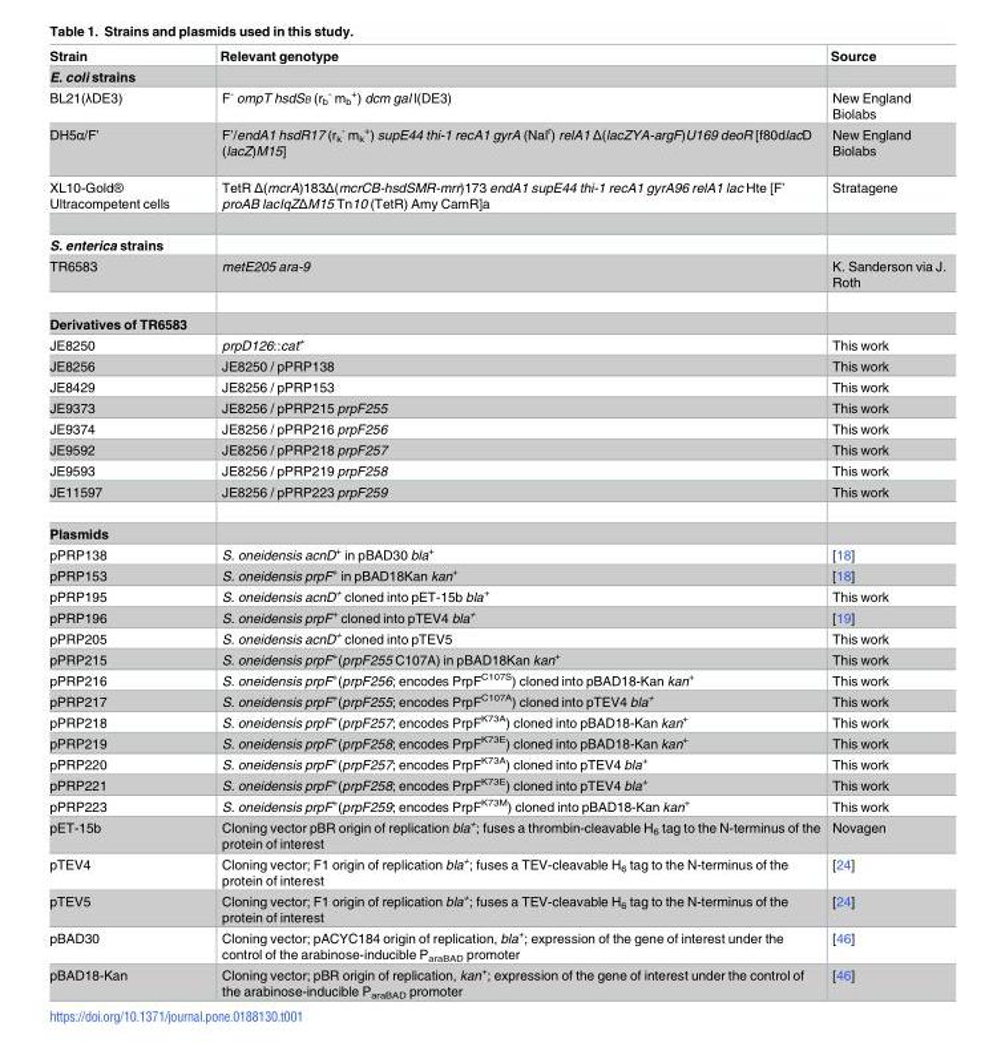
<table><thead><tr><td>Strain</td><td>Relevant genotype</td><td>Source</td></tr></thead><tbody><tr><td colspan="3">E. coli strains</td></tr><tr><td>BL21(λDE3)</td><td>F<sup>-</sup> ompT hsdSB (r<sub>b</sub> <sup>-</sup> m<sub>b</sub> <sup>+</sup>) dcm gal l(DE3)</td><td>New England Biolabs</td></tr><tr><td>DH5α/F’</td><td>F’/endA1 hsdR17 (r<sub>k</sub> <sup>-</sup> m<sub>k</sub> <sup>+</sup>) supE44 thi-1 recA1 gyrA (Nal<sup>r</sup>) relA1 Δ(lacZYA-argF)U169 deoR [f80dlacD (lacZ)M15]</td><td>New England Biolabs</td></tr><tr><td>XL10-Gold® Ultracompetent cells</td><td>TetR Δ(mcrA)183Δ(mcrCB-hsdSMR-mrr)173 endA1 supE44 thi-1 recA1 gyrA96 relA1 lac Hte [F’ proAB lacIqZΔM15 Tn10 (TetR) Amy CamR]a</td><td>Stratagene</td></tr><tr><td colspan="3">S. enterica strains</td></tr><tr><td>TR6583</td><td>metE205 ara-9</td><td>K. Sanderson via J. Roth</td></tr><tr><td colspan="3">Derivatives of TR6583</td></tr><tr><td>JE8250</td><td>prpD126::cat<sup>+</sup></td><td>This work</td></tr><tr><td>JE8256</td><td>JE8250 / pPRP138</td><td>This work</td></tr><tr><td>JE8429</td><td>JE8256 / pPRP153</td><td>This work</td></tr><tr><td>JE9373</td><td>JE8256 / pPRP215 prpF255</td><td>This work</td></tr><tr><td>JE9374</td><td>JE8256 / pPRP216 prpF256</td><td>This work</td></tr><tr><td>JE9592</td><td>JE8256 / pPRP218 prpF257</td><td>This work</td></tr><tr><td>JE9593</td><td>JE8256 / pPRP219 prpF258</td><td>This work</td></tr><tr><td>JE11597</td><td>JE8256 / pPRP223 prpF259</td><td>This work</td></tr><tr><td colspan="3">Plasmids</td></tr><tr><td>pPRP138</td><td>S. oneidensis acnD<sup>+</sup> in pBAD30 bla<sup>+</sup></td><td>[18]</td></tr><tr><td>pPRP153</td><td>S. oneidensis prpF<sup>+</sup> in pBAD18Kan kan<sup>+</sup></td><td>[18]</td></tr><tr><td>pPRP195</td><td>S. oneidensis acnD<sup>+</sup> cloned into pET-15b bla<sup>+</sup></td><td>This work</td></tr><tr><td>pPRP196</td><td>S. oneidensis prpF<sup>+</sup> cloned into pTEV4 bla<sup>+</sup></td><td>[19]</td></tr><tr><td>pPRP205</td><td>S. oneidensis acnD<sup>+</sup> cloned into pTEV5</td><td>This work</td></tr><tr><td>pPRP215</td><td>S. oneidensis prpF<sup>+</sup>(prpF255 C107A) in pBAD18Kan kan<sup>+</sup></td><td>This work</td></tr><tr><td>pPRP216</td><td>S. oneidensis prpF<sup>+</sup>(prpF256; encodes PrpF<sup>C107S</sup>) cloned into pBAD18-Kan kan<sup>+</sup></td><td>This work</td></tr><tr><td>pPRP217</td><td>S. oneidensis prpF<sup>+</sup>(prpF255; encodes PrpF<sup>C107A</sup>) cloned into pTEV4 bla<sup>+</sup></td><td>This work</td></tr><tr><td>pPRP218</td><td>S. oneidensis prpF<sup>+</sup>(prpF257; encodes PrpF<sup>K73A</sup>) cloned into pBAD18-Kan kan<sup>+</sup></td><td>This work</td></tr><tr><td>pPRP219</td><td>S. oneidensis prpF<sup>+</sup>(prpF258; encodes PrpF<sup>K73E</sup>) cloned into pBAD18-Kan kan<sup>+</sup></td><td>This work</td></tr><tr><td>pPRP220</td><td>S. oneidensis prpF<sup>+</sup>(prpF257; encodes PrpF<sup>K73A</sup>) cloned into pTEV4 bla<sup>+</sup></td><td>This work</td></tr><tr><td>pPRP221</td><td>S. oneidensis prpF<sup>+</sup>(prpF258; encodes PrpF<sup>K73E</sup>) cloned into pTEV4 bla<sup>+</sup></td><td>This work</td></tr><tr><td>pPRP223</td><td>S. oneidensis prpF<sup>+</sup>(prpF259; encodes PrpF<sup>K73M</sup>) cloned into pBAD18-Kan kan<sup>+</sup></td><td>This work</td></tr><tr><td>pET-15b</td><td>Cloning vector pBR origin of replication bla<sup>+</sup>; fuses a thrombin-cleavable H<sub>6</sub> tag to the N-terminus of the protein of interest</td><td>Novagen</td></tr><tr><td>pTEV4</td><td>Cloning vector; F1 origin of replication bla<sup>+</sup>; fuses a TEV-cleavable H<sub>6</sub> tag to the N-terminus of the protein of interest</td><td>[24]</td></tr><tr><td>pTEV5</td><td>Cloning vector; F1 origin of replication bla<sup>+</sup>; fuses a TEV-cleavable H<sub>6</sub> tag to the N-terminus of the protein of interest</td><td>[24]</td></tr><tr><td>pBAD30</td><td>Cloning vector; pACYC184 origin of replication, bla<sup>+</sup>; expression of the gene of interest under the control of the arabinose-inducible P<sub>araBAD</sub> promoter</td><td>[46]</td></tr><tr><td>pBAD18-Kan</td><td>Cloning vector; pBR origin of replication, kan<sup>+</sup>; expression of the gene of interest under the control of the arabinose-inducible P<sub>araBAD</sub> promoter</td><td>[46]</td></tr></tbody></table>